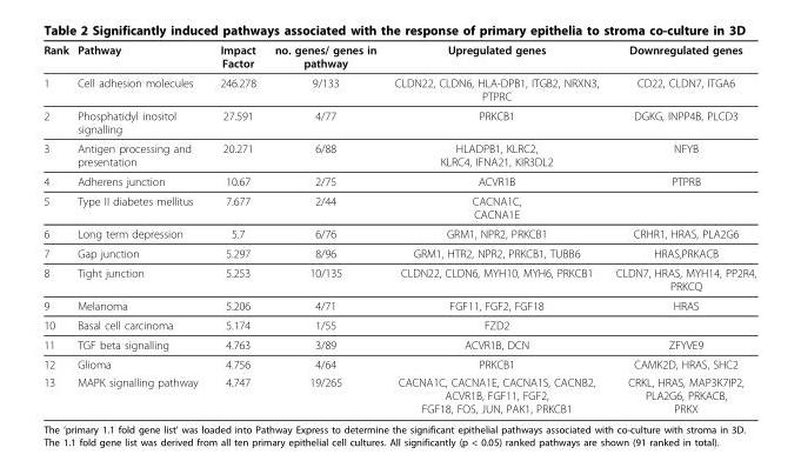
<table><thead><tr><td>Rank</td><td>Pathway</td><td>Impact Factor</td><td>no. genes/ genes in pathway</td><td>Upregulated genes</td><td>Downregulated genes</td></tr></thead><tbody><tr><td>1</td><td>Cell adhesion molecules</td><td>246.278</td><td>9/133</td><td>CLDN22, CLDN6, HLA-DPB1, ITGB2, NRXN3, PTPRC</td><td>CD22, CLDN7, ITGA6</td></tr><tr><td>2</td><td>Phosphatidyl inositol signalling</td><td>27.591</td><td>4/77</td><td>PRKCB1</td><td>DGKG, INPP4B, PLCD3</td></tr><tr><td>3</td><td>Antigen processing and presentation</td><td>20.271</td><td>6/88</td><td>HLADPB1, KLRC2, KLRC4, IFNA21, KIR3DL2</td><td>NFYB</td></tr><tr><td>4</td><td>Adherens junction</td><td>10.67</td><td>2/75</td><td>ACVR1B</td><td>PTPRB</td></tr><tr><td>5</td><td>Type II diabetes mellitus</td><td>7.677</td><td>2/44</td><td>CACNA1C, CACNA1E</td><td></td></tr><tr><td>6</td><td>Long term depression</td><td>5.7</td><td>6/76</td><td>GRM1, NPR2, PRKCB1</td><td>CRHR1, HRAS, PLA2G6</td></tr><tr><td>7</td><td>Gap junction</td><td>5.297</td><td>8/96</td><td>GRM1, HTR2, NPR2, PRKCB1, TUBB6</td><td>HRAS,PRKACB</td></tr><tr><td>8</td><td>Tight junction</td><td>5.253</td><td>10/135</td><td>CLDN22, CLDN6, MYH10, MYH6, PRKCB1</td><td>CLDN7, HRAS, MYH14, PP2R4, PRKCQ</td></tr><tr><td>9</td><td>Melanoma</td><td>5.206</td><td>4/71</td><td>FGF11, FGF2, FGF18</td><td>HRAS</td></tr><tr><td>10</td><td>Basal cell carcinoma</td><td>5.174</td><td>1/55</td><td>FZD2</td><td></td></tr><tr><td>11</td><td>TGF beta signalling</td><td>4.763</td><td>3/89</td><td>ACVR1B, DCN</td><td>ZFYVE9</td></tr><tr><td>12</td><td>Glioma</td><td>4.756</td><td>4/64</td><td>PRKCB1</td><td>CAMK2D, HRAS, SHC2</td></tr><tr><td>13</td><td>MAPK signalling pathway</td><td>4.747</td><td>19/265</td><td>CACNA1C, CACNA1E, CACNA1S, CACNB2, ACVR1B, FGF11, FGF2, FGF18, FOS, JUN, PAK1, PRKCB1</td><td>CRKL, HRAS, MAP3K7IP2, PLA2G6, PRKACB, PRKX</td></tr></tbody></table>